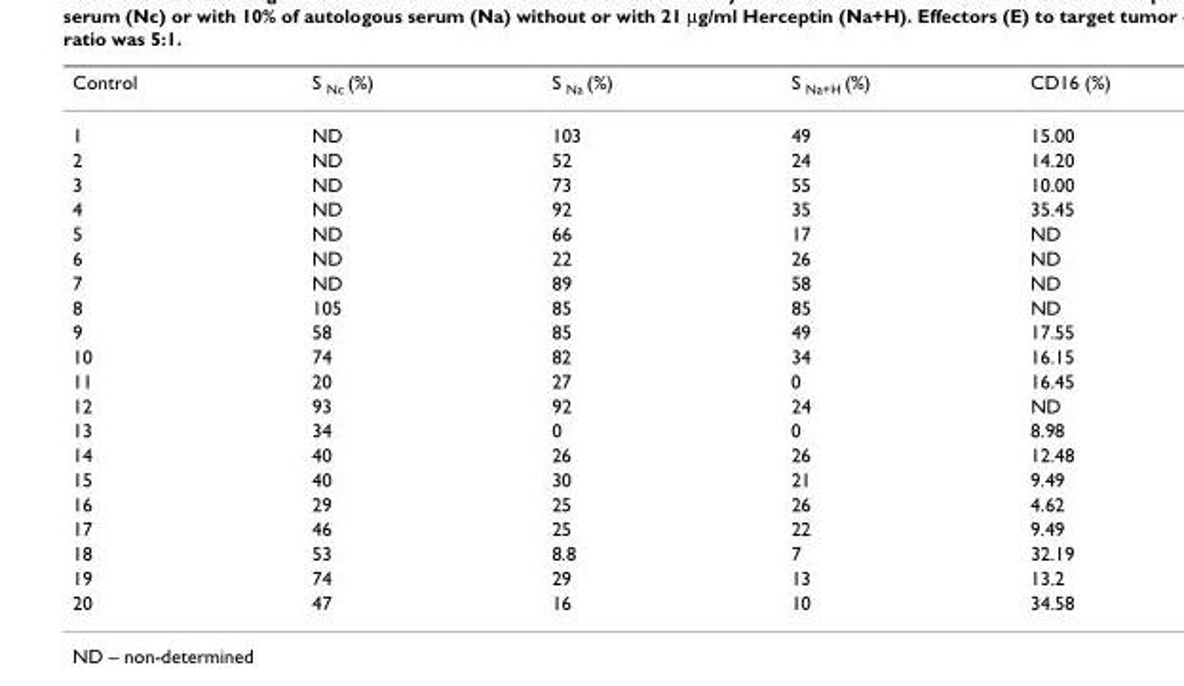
<table><thead><tr><td>Control</td><td>S <sub>Nc</sub> (%)</td><td>S <sub>Na</sub> (%)</td><td>S <sub>Na+H</sub> (%)</td><td>CD16 (%)</td></tr></thead><tbody><tr><td>1</td><td>ND</td><td>103</td><td>49</td><td>15.00</td></tr><tr><td>2</td><td>ND</td><td>52</td><td>24</td><td>14.20</td></tr><tr><td>3</td><td>ND</td><td>73</td><td>55</td><td>10.00</td></tr><tr><td>4</td><td>ND</td><td>92</td><td>35</td><td>35.45</td></tr><tr><td>5</td><td>ND</td><td>66</td><td>17</td><td>ND</td></tr><tr><td>6</td><td>ND</td><td>22</td><td>26</td><td>ND</td></tr><tr><td>7</td><td>ND</td><td>89</td><td>58</td><td>ND</td></tr><tr><td>8</td><td>105</td><td>85</td><td>85</td><td>ND</td></tr><tr><td>9</td><td>58</td><td>85</td><td>49</td><td>17.55</td></tr><tr><td>10</td><td>74</td><td>82</td><td>34</td><td>16.15</td></tr><tr><td>11</td><td>20</td><td>27</td><td>0</td><td>16.45</td></tr><tr><td>12</td><td>93</td><td>92</td><td>24</td><td>ND</td></tr><tr><td>13</td><td>34</td><td>0</td><td>0</td><td>8.98</td></tr><tr><td>14</td><td>40</td><td>26</td><td>26</td><td>12.48</td></tr><tr><td>15</td><td>40</td><td>30</td><td>21</td><td>9.49</td></tr><tr><td>16</td><td>29</td><td>25</td><td>26</td><td>4.62</td></tr><tr><td>17</td><td>46</td><td>25</td><td>22</td><td>9.49</td></tr><tr><td>18</td><td>53</td><td>8.8</td><td>7</td><td>32.19</td></tr><tr><td>19</td><td>74</td><td>29</td><td>13</td><td>13.2</td></tr><tr><td>20</td><td>47</td><td>16</td><td>10</td><td>34.58</td></tr></tbody></table>